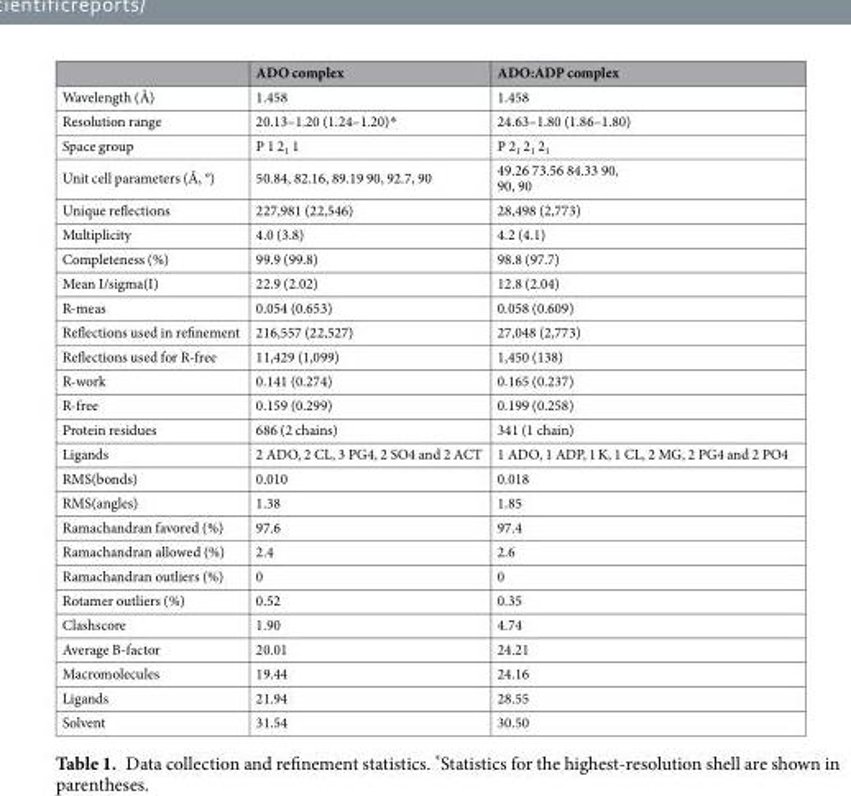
<table><thead><tr><td></td><td>ADO complex</td><td>ADO:ADP complex</td></tr></thead><tbody><tr><td>Wavelength (Å)</td><td>1.458</td><td>1.458</td></tr><tr><td>Resolution range</td><td>20.13–1.20 (1.24–1.20)*</td><td>24.63–1.80 (1.86–1.80)</td></tr><tr><td>Space group</td><td>P 1 2<sub>1</sub> 1</td><td>P 2<sub>1</sub> 2<sub>1</sub> 2<sub>1</sub></td></tr><tr><td>Unit cell parameters (Å, °)</td><td>50.84, 82.16, 89.19 90, 92.7, 90</td><td>49.26 73.56 84.33 90, 90, 90</td></tr><tr><td>Unique reflections</td><td>227,981 (22,546)</td><td>28,498 (2,773)</td></tr><tr><td>Multiplicity</td><td>4.0 (3.8)</td><td>4.2 (4.1)</td></tr><tr><td>Completeness (%)</td><td>99.9 (99.8)</td><td>98.8 (97.7)</td></tr><tr><td>Mean I/sigma(I)</td><td>22.9 (2.02)</td><td>12.8 (2.04)</td></tr><tr><td>R-meas</td><td>0.054 (0.653)</td><td>0.058 (0.609)</td></tr><tr><td>Reflections used in refinement</td><td>216,557 (22,527)</td><td>27,048 (2,773)</td></tr><tr><td>Reflections used for R-free</td><td>11,429 (1,099)</td><td>1,450 (138)</td></tr><tr><td>R-work</td><td>0.141 (0.274)</td><td>0.165 (0.237)</td></tr><tr><td>R-free</td><td>0.159 (0.299)</td><td>0.199 (0.258)</td></tr><tr><td>Protein residues</td><td>686 (2 chains)</td><td>341 (1 chain)</td></tr><tr><td>Ligands</td><td>2 ADO, 2 CL, 3 PG4, 2 SO4 and 2 ACT</td><td>1 ADO, 1 ADP, 1 K, 1 CL, 2 MG, 2 PG4 and 2 PO4</td></tr><tr><td>RMS(bonds)</td><td>0.010</td><td>0.018</td></tr><tr><td>RMS(angles)</td><td>1.38</td><td>1.85</td></tr><tr><td>Ramachandran favored (%)</td><td>97.6</td><td>97.4</td></tr><tr><td>Ramachandran allowed (%)</td><td>2.4</td><td>2.6</td></tr><tr><td>Ramachandran outliers (%)</td><td>0</td><td>0</td></tr><tr><td>Rotamer outliers (%)</td><td>0.52</td><td>0.35</td></tr><tr><td>Clashscore</td><td>1.90</td><td>4.74</td></tr><tr><td>Average B-factor</td><td>20.01</td><td>24.21</td></tr><tr><td>Macromolecules</td><td>19.44</td><td>24.16</td></tr><tr><td>Ligands</td><td>21.94</td><td>28.55</td></tr><tr><td>Solvent</td><td>31.54</td><td>30.50</td></tr></tbody></table>